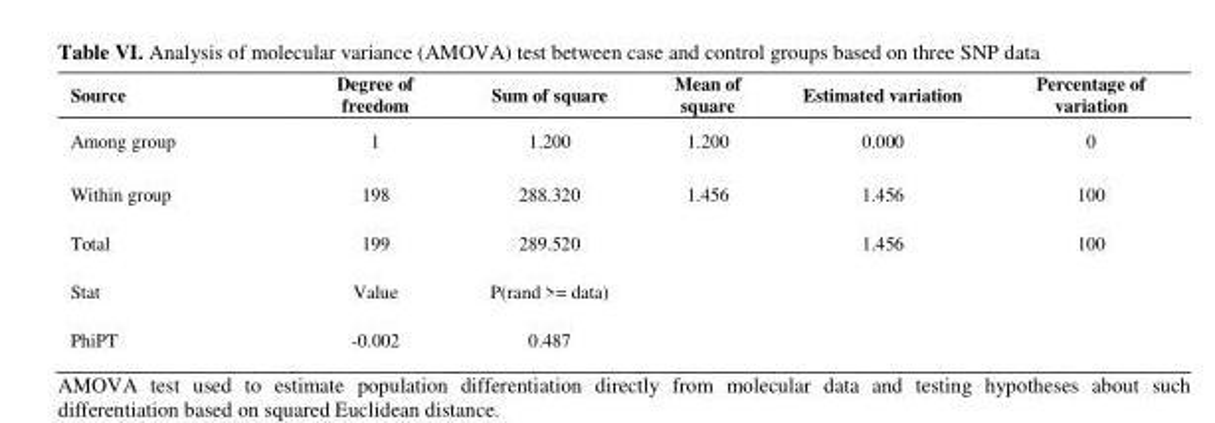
<table><thead><tr><td>Source</td><td>Degree of freedom</td><td>Sum of square</td><td>Mean of square</td><td>Estimated variation</td><td>Percentage of variation</td></tr></thead><tbody><tr><td>Among group</td><td>1</td><td>1.200</td><td>1.200</td><td>0.000</td><td>0</td></tr><tr><td>Within group</td><td>198</td><td>288.320</td><td>1.456</td><td>1.456</td><td>100</td></tr><tr><td>Total</td><td>199</td><td>289.520</td><td></td><td>1.456</td><td>100</td></tr><tr><td>Stat</td><td>Value</td><td>P(rand &gt;= data)</td><td></td><td></td><td></td></tr><tr><td>PhiPT</td><td>-0.002</td><td>0.487</td><td></td><td></td><td></td></tr></tbody></table>